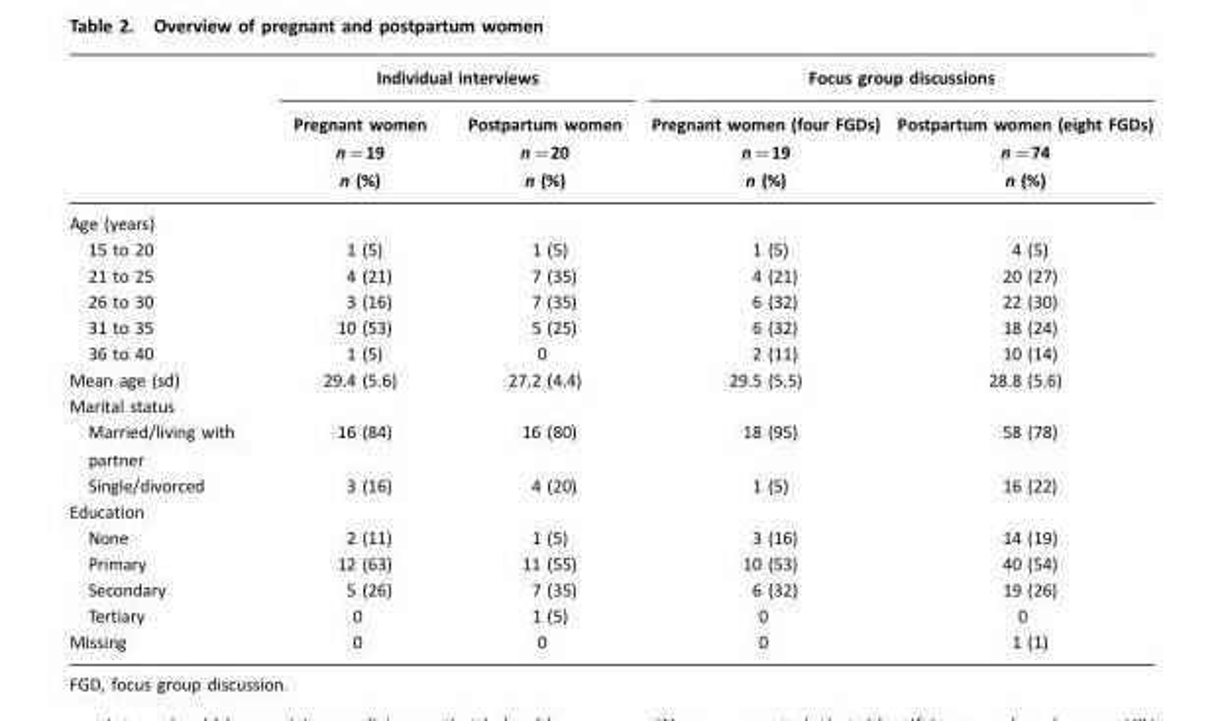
<table><thead><tr><td rowspan="2"></td><td colspan="2">Individual interviews</td><td colspan="2">Focus group discussions</td></tr><tr><td>Pregnant women n=19 n (%)</td><td>Postpartum women n=20 n (%)</td><td>Pregnant women (four FGDs) n=19 n (%)</td><td>Postpartum women (eight FGDs) n=74 n (%)</td></tr></thead><tbody><tr><td colspan="5">Age (years)</td></tr><tr><td>15 to 20</td><td>1 (5)</td><td>1 (5)</td><td>1 (5)</td><td>4 (5)</td></tr><tr><td>21 to 25</td><td>4 (21)</td><td>7 (35)</td><td>4 (21)</td><td>20 (27)</td></tr><tr><td>26 to 30</td><td>3 (16)</td><td>7 (35)</td><td>6 (32)</td><td>22 (30)</td></tr><tr><td>31 to 35</td><td>10 (53)</td><td>5 (25)</td><td>6 (32)</td><td>18 (24)</td></tr><tr><td>36 to 40</td><td>1 (5)</td><td>0</td><td>2 (11)</td><td>10 (14)</td></tr><tr><td>Mean age (sd)</td><td>29.4 (5.6)</td><td>27.2 (4.4)</td><td>29.5 (5.5)</td><td>28.8 (5.6)</td></tr><tr><td colspan="5">Marital status</td></tr><tr><td>Married/living with partner</td><td>16 (84)</td><td>16 (80)</td><td>18 (95)</td><td>58 (78)</td></tr><tr><td>Single/divorced</td><td>3 (16)</td><td>4 (20)</td><td>1 (5)</td><td>16 (22)</td></tr><tr><td colspan="5">Education</td></tr><tr><td>None</td><td>2 (11)</td><td>1 (5)</td><td>3 (16)</td><td>14 (19)</td></tr><tr><td>Primary</td><td>12 (63)</td><td>11 (55)</td><td>10 (53)</td><td>40 (54)</td></tr><tr><td>Secondary</td><td>5 (26)</td><td>7 (35)</td><td>6 (32)</td><td>19 (26)</td></tr><tr><td>Tertiary</td><td>0</td><td>1 (5)</td><td>0</td><td>0</td></tr><tr><td>Missing</td><td>0</td><td>0</td><td>0</td><td>1 (1)</td></tr></tbody></table>